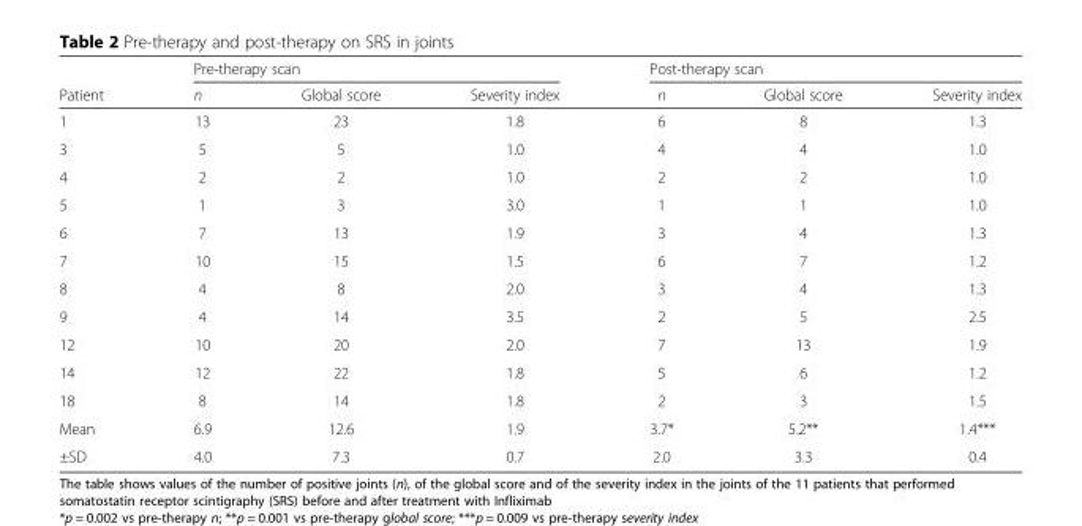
<table><thead><tr><td rowspan="2">Patient</td><td colspan="3">Pre-therapy scan</td><td colspan="3">Post-therapy scan</td></tr><tr><td>n</td><td>Global score</td><td>Severity index</td><td>n</td><td>Global score</td><td>Severity index</td></tr></thead><tbody><tr><td>1</td><td>13</td><td>23</td><td>1.8</td><td>6</td><td>8</td><td>1.3</td></tr><tr><td>3</td><td>5</td><td>5</td><td>1.0</td><td>4</td><td>4</td><td>1.0</td></tr><tr><td>4</td><td>2</td><td>2</td><td>1.0</td><td>2</td><td>2</td><td>1.0</td></tr><tr><td>5</td><td>1</td><td>3</td><td>3.0</td><td>1</td><td>1</td><td>1.0</td></tr><tr><td>6</td><td>7</td><td>13</td><td>1.9</td><td>3</td><td>4</td><td>1.3</td></tr><tr><td>7</td><td>10</td><td>15</td><td>1.5</td><td>6</td><td>7</td><td>1.2</td></tr><tr><td>8</td><td>4</td><td>8</td><td>2.0</td><td>3</td><td>4</td><td>1.3</td></tr><tr><td>9</td><td>4</td><td>14</td><td>3.5</td><td>2</td><td>5</td><td>2.5</td></tr><tr><td>12</td><td>10</td><td>20</td><td>2.0</td><td>7</td><td>13</td><td>1.9</td></tr><tr><td>14</td><td>12</td><td>22</td><td>1.8</td><td>5</td><td>6</td><td>1.2</td></tr><tr><td>18</td><td>8</td><td>14</td><td>1.8</td><td>2</td><td>3</td><td>1.5</td></tr><tr><td>Mean</td><td>6.9</td><td>12.6</td><td>1.9</td><td>3.7*</td><td>5.2**</td><td>1.4***</td></tr><tr><td>±SD</td><td>4.0</td><td>7.3</td><td>0.7</td><td>2.0</td><td>3.3</td><td>0.4</td></tr></tbody></table>